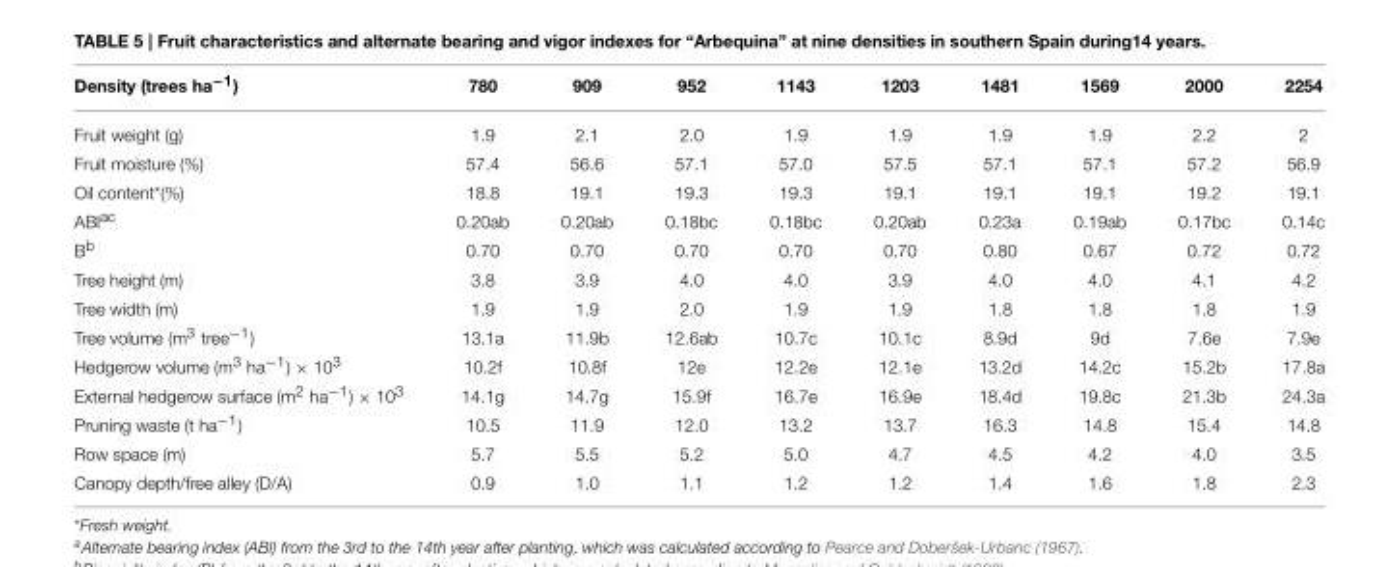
<table><thead><tr><td>Density (trees ha<sup>−1</sup>)</td><td>780</td><td>909</td><td>952</td><td>1143</td><td>1203</td><td>1481</td><td>1569</td><td>2000</td><td>2254</td></tr></thead><tbody><tr><td>Fruit weight (g)</td><td>1.9</td><td>2.1</td><td>2.0</td><td>1.9</td><td>1.9</td><td>1.9</td><td>1.9</td><td>2.2</td><td>2</td></tr><tr><td>Fruit moisture (%)</td><td>57.4</td><td>56.6</td><td>57.1</td><td>57.0</td><td>57.5</td><td>57.1</td><td>57.1</td><td>57.2</td><td>56.9</td></tr><tr><td>Oil content*(%)</td><td>18.8</td><td>19.1</td><td>19.3</td><td>19.3</td><td>19.1</td><td>19.1</td><td>19.1</td><td>19.2</td><td>19.1</td></tr><tr><td>ABI<sup>ac</sup></td><td>0.20ab</td><td>0.20ab</td><td>0.18bc</td><td>0.18bc</td><td>0.20ab</td><td>0.23a</td><td>0.19ab</td><td>0.17bc</td><td>0.14c</td></tr><tr><td>B<sup>b</sup></td><td>0.70</td><td>0.70</td><td>0.70</td><td>0.70</td><td>0.70</td><td>0.80</td><td>0.67</td><td>0.72</td><td>0.72</td></tr><tr><td>Tree height (m)</td><td>3.8</td><td>3.9</td><td>4.0</td><td>4.0</td><td>3.9</td><td>4.0</td><td>4.0</td><td>4.1</td><td>4.2</td></tr><tr><td>Tree width (m)</td><td>1.9</td><td>1.9</td><td>2.0</td><td>1.9</td><td>1.9</td><td>1.8</td><td>1.8</td><td>1.8</td><td>1.9</td></tr><tr><td>Tree volume (m<sup>3</sup> tree<sup>−1</sup>)</td><td>13.1a</td><td>11.9b</td><td>12.6ab</td><td>10.7c</td><td>10.1c</td><td>8.9d</td><td>9d</td><td>7.6e</td><td>7.9e</td></tr><tr><td>Hedgerow volume (m<sup>3</sup> ha<sup>−1</sup>) × 10<sup>3</sup></td><td>10.2f</td><td>10.8f</td><td>12e</td><td>12.2e</td><td>12.1e</td><td>13.2d</td><td>14.2c</td><td>15.2b</td><td>17.8a</td></tr><tr><td>External hedgerow surface (m2 ha<sup>−1</sup>) × 10<sup>3</sup></td><td>14.1g</td><td>14.7g</td><td>15.9f</td><td>16.7e</td><td>16.9e</td><td>18.4d</td><td>19.8c</td><td>21.3b</td><td>24.3a</td></tr><tr><td>Pruning waste (t ha<sup>−1</sup>)</td><td>10.5</td><td>11.9</td><td>12.0</td><td>13.2</td><td>13.7</td><td>16.3</td><td>14.8</td><td>15.4</td><td>14.8</td></tr><tr><td>Row space (m)</td><td>5.7</td><td>5.5</td><td>5.2</td><td>5.0</td><td>4.7</td><td>4.5</td><td>4.2</td><td>4.0</td><td>3.5</td></tr><tr><td>Canopy depth/free alley (D/A)</td><td>0.9</td><td>1.0</td><td>1.1</td><td>1.2</td><td>1.2</td><td>1.4</td><td>1.6</td><td>1.8</td><td>2.3</td></tr></tbody></table>